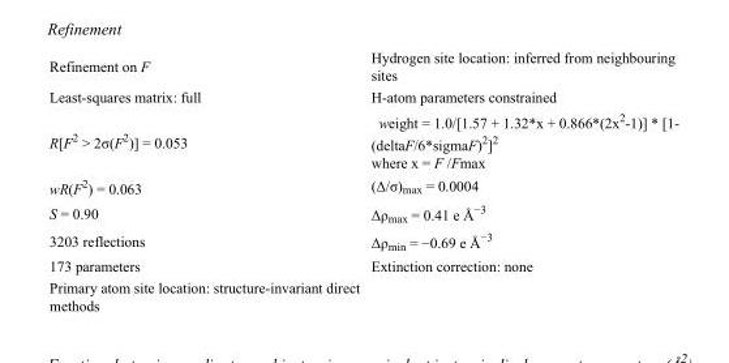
<table><tbody><tr><td>Refinement on F</td><td>Hydrogen site location: inferred from neighbouring sites</td></tr><tr><td>Least-squares matrix: full</td><td>H-atom parameters constrained</td></tr><tr><td>R[F<sup>2</sup> &gt; 2σ(F<sup>2</sup>)] = 0.053</td><td>weight = 1.0/[1.57 + 1.32*x + 0.866*(2x<sup>2</sup>-1)] * [1- (deltaF/6*sigmaF)<sup>2</sup>]<sup>2</sup> where x = F /Fmax</td></tr><tr><td>wR(F<sup>2</sup>) = 0.063</td><td>(Δ/σ)<sub>max</sub> = 0.0004</td></tr><tr><td>S = 0.90</td><td>Δρ<sub>max</sub> = 0.41 e Å<sup>−3</sup></td></tr><tr><td>3203 reflections</td><td>Δρ<sub>min</sub> = −0.69 e Å<sup>−3</sup></td></tr><tr><td>173 parameters</td><td>Extinction correction: none</td></tr><tr><td>Primary atom site location: structure-invariant direct methods</td><td></td></tr></tbody></table>